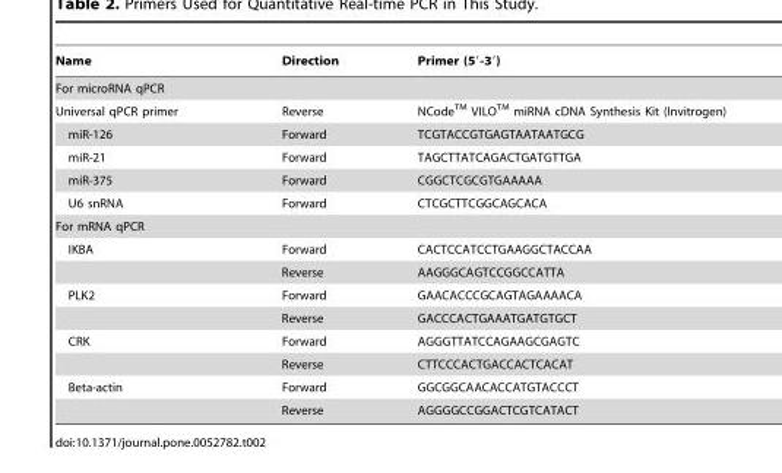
<table><thead><tr><td>Name</td><td>Direction</td><td>Primer (5′-3′)</td></tr></thead><tbody><tr><td colspan="3">For microRNA qPCR</td></tr><tr><td>Universal qPCR primer</td><td>Reverse</td><td>NCodeTM VILOTM miRNA cDNA Synthesis Kit (Invitrogen)</td></tr><tr><td>miR-126</td><td>Forward</td><td>TCGTACCGTGAGTAATAATGCG</td></tr><tr><td>miR-21</td><td>Forward</td><td>TAGCTTATCAGACTGATGTTGA</td></tr><tr><td>miR-375</td><td>Forward</td><td>CGGCTCGCGTGAAAAA</td></tr><tr><td>U6 snRNA</td><td>Forward</td><td>CTCGCTTCGGCAGCACA</td></tr><tr><td colspan="3">For mRNA qPCR</td></tr><tr><td rowspan="2">IKBA</td><td>Forward</td><td>CACTCCATCCTGAAGGCTACCAA</td></tr><tr><td>Reverse</td><td>AAGGGCAGTCCGGCCATTA</td></tr><tr><td rowspan="2">PLK2</td><td>Forward</td><td>GAACACCCGCAGTAGAAAACA</td></tr><tr><td>Reverse</td><td>GACCCACTGAAATGATGTGCT</td></tr><tr><td rowspan="2">CRK</td><td>Forward</td><td>AGGGTTATCCAGAAGCGAGTC</td></tr><tr><td>Reverse</td><td>CTTCCCACTGACCACTCACAT</td></tr><tr><td rowspan="2">Beta-actin</td><td>Forward</td><td>GGCGGCAACACCATGTACCCT</td></tr><tr><td>Reverse</td><td>AGGGGCCGGACTCGTCATACT</td></tr></tbody></table>